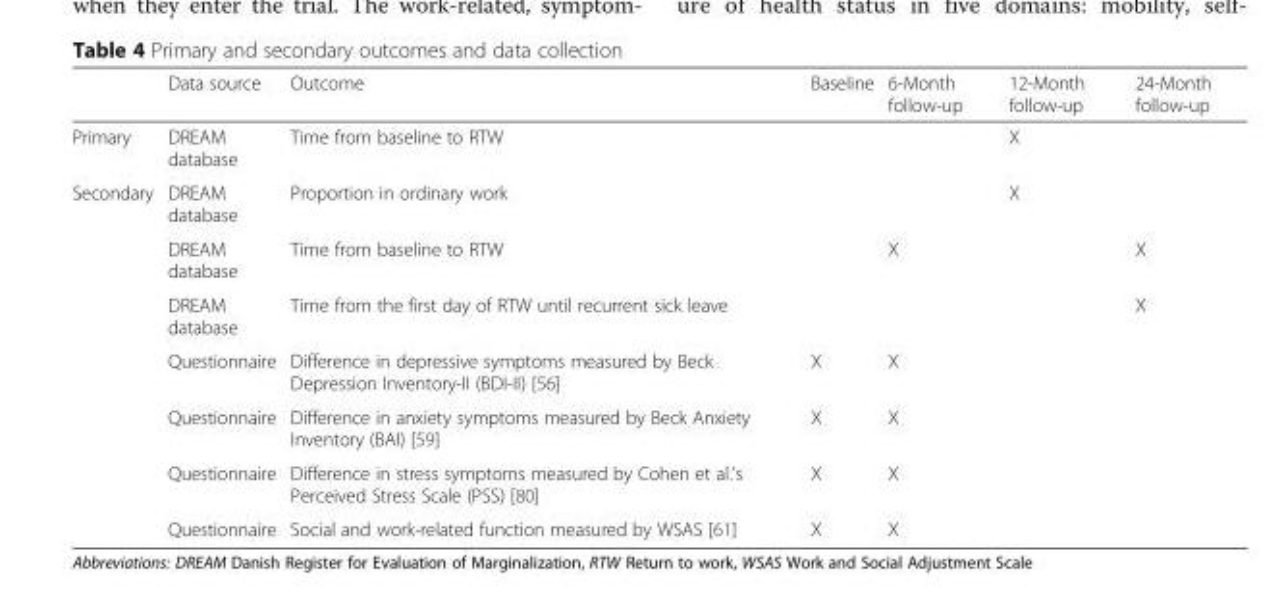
<table><thead><tr><td></td><td>Data source</td><td>Outcome</td><td>Baseline</td><td>6-Month follow-up</td><td>12-Month follow-up</td><td>24-Month follow-up</td></tr></thead><tbody><tr><td>Primary</td><td>DREAM database</td><td>Time from baseline to RTW</td><td></td><td></td><td>X</td><td></td></tr><tr><td rowspan="7">Secondary</td><td>DREAM database</td><td>Proportion in ordinary work</td><td></td><td></td><td>X</td><td></td></tr><tr><td>DREAM database</td><td>Time from baseline to RTW</td><td></td><td>X</td><td></td><td>X</td></tr><tr><td>DREAM database</td><td>Time from the first day of RTW until recurrent sick leave</td><td></td><td></td><td></td><td>X</td></tr><tr><td>Questionnaire</td><td>Difference in depressive symptoms measured by Beck Depression Inventory-II (BDI-II) [56]</td><td>X</td><td>X</td><td></td><td></td></tr><tr><td>Questionnaire</td><td>Difference in anxiety symptoms measured by Beck Anxiety Inventory (BAI) [59]</td><td>X</td><td>X</td><td></td><td></td></tr><tr><td>Questionnaire</td><td>Difference in stress symptoms measured by Cohen et al.’s Perceived Stress Scale (PSS) [80]</td><td>X</td><td>X</td><td></td><td></td></tr><tr><td>Questionnaire</td><td>Social and work-related function measured by WSAS [61]</td><td>X</td><td>X</td><td></td><td></td></tr></tbody></table>